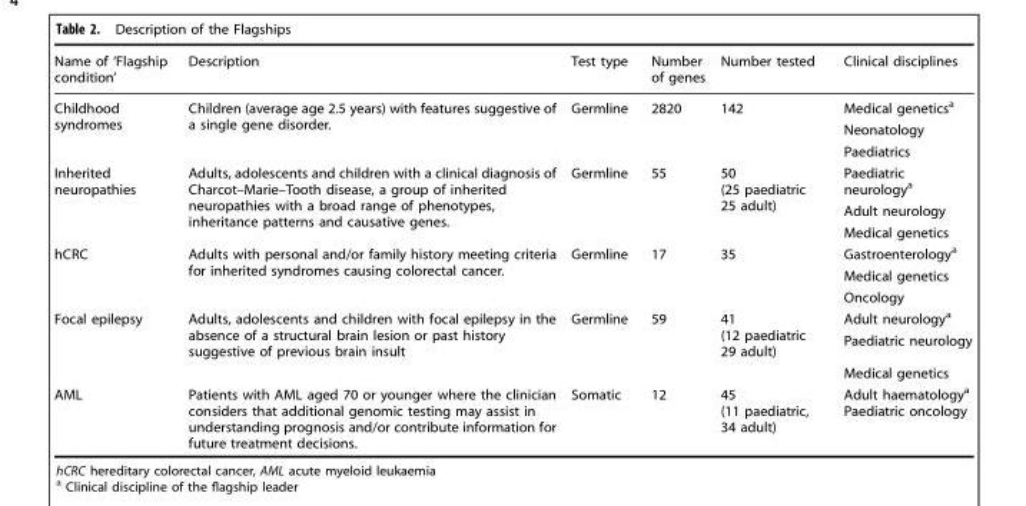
<table><thead><tr><td>Name of ‘Flagship condition’</td><td>Description</td><td>Test type</td><td>Number of genes</td><td>Number tested</td><td>Clinical disciplines</td></tr></thead><tbody><tr><td rowspan="3">Childhood syndromes</td><td rowspan="2">Children (average age 2.5 years) with features suggestive of a single gene disorder.</td><td>Germline</td><td>2820</td><td>142</td><td>Medical genetics<sup>a</sup></td></tr><tr><td></td><td></td><td></td><td>Neonatology</td></tr><tr><td></td><td></td><td></td><td></td><td>Paediatrics</td></tr><tr><td rowspan="3">Inherited neuropathies</td><td rowspan="3">Adults, adolescents and children with a clinical diagnosis of Charcot–Marie–Tooth disease, a group of inherited neuropathies with a broad range of phenotypes, inheritance patterns and causative genes.</td><td>Germline</td><td>55</td><td rowspan="2">50 (25 paediatric 25 adult)</td><td>Paediatric neurology<sup>a</sup></td></tr><tr><td></td><td></td><td>Adult neurology</td></tr><tr><td></td><td></td><td></td><td>Medical genetics</td></tr><tr><td rowspan="3">hCRC</td><td rowspan="2">Adults with personal and/or family history meeting criteria for inherited syndromes causing colorectal cancer.</td><td>Germline</td><td>17</td><td>35</td><td>Gastroenterology<sup>a</sup></td></tr><tr><td></td><td></td><td></td><td>Medical genetics</td></tr><tr><td></td><td></td><td></td><td></td><td>Oncology</td></tr><tr><td rowspan="3">Focal epilepsy</td><td rowspan="3">Adults, adolescents and children with focal epilepsy in the absence of a structural brain lesion or past history suggestive of previous brain insult</td><td>Germline</td><td>59</td><td rowspan="2">41 (12 paediatric 29 adult)</td><td>Adult neurology<sup>a</sup></td></tr><tr><td></td><td></td><td>Paediatric neurology</td></tr><tr><td></td><td></td><td></td><td>Medical genetics</td></tr><tr><td>AML</td><td>Patients with AML aged 70 or younger where the clinician considers that additional genomic testing may assist in understanding prognosis and/or contribute information for future treatment decisions.</td><td>Somatic</td><td>12</td><td>45 (11 paediatric, 34 adult)</td><td>Adult haematology<sup>a</sup> Paediatric oncology</td></tr></tbody></table>